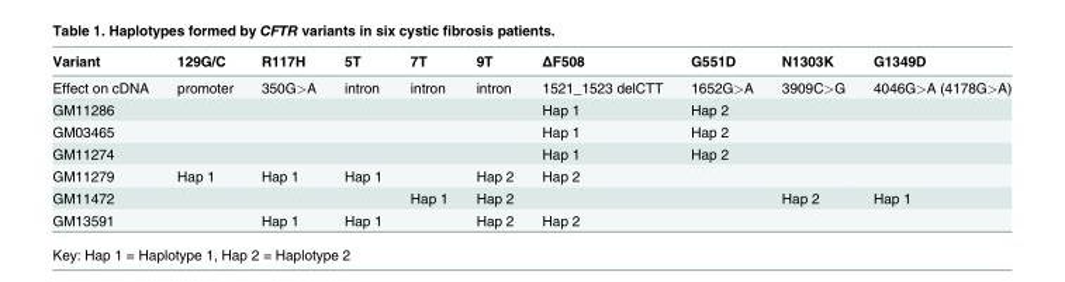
<table><thead><tr><td>Variant</td><td>129G/C</td><td>R117H</td><td>5T</td><td>7T</td><td>9T</td><td>ΔF508</td><td>G551D</td><td>N1303K</td><td>G1349D</td></tr></thead><tbody><tr><td>Effect on cDNA</td><td>promoter</td><td>350G&gt;A</td><td>intron</td><td>intron</td><td>intron</td><td>1521_1523 delCTT</td><td>1652G&gt;A</td><td>3909C&gt;G</td><td>4046G&gt;A (4178G&gt;A)</td></tr><tr><td>GM11286</td><td></td><td></td><td></td><td></td><td></td><td>Hap 1</td><td>Hap 2</td><td></td><td></td></tr><tr><td>GM03465</td><td></td><td></td><td></td><td></td><td></td><td>Hap 1</td><td>Hap 2</td><td></td><td></td></tr><tr><td>GM11274</td><td></td><td></td><td></td><td></td><td></td><td>Hap 1</td><td>Hap 2</td><td></td><td></td></tr><tr><td>GM11279</td><td>Hap 1</td><td>Hap 1</td><td>Hap 1</td><td></td><td>Hap 2</td><td>Hap 2</td><td></td><td></td><td></td></tr><tr><td>GM11472</td><td></td><td></td><td></td><td>Hap 1</td><td>Hap 2</td><td></td><td></td><td>Hap 2</td><td>Hap 1</td></tr><tr><td>GM13591</td><td></td><td>Hap 1</td><td>Hap 1</td><td></td><td>Hap 2</td><td>Hap 2</td><td></td><td></td><td></td></tr></tbody></table>